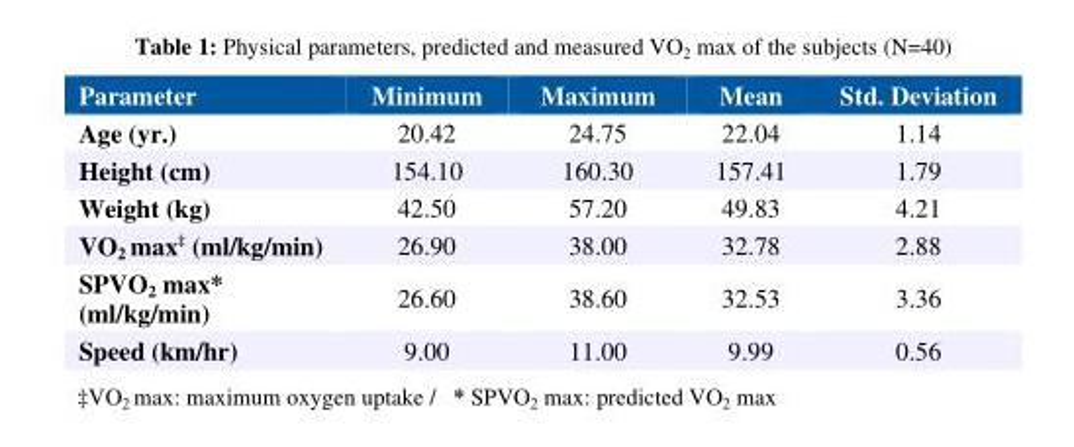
<table><thead><tr><td>Parameter</td><td>Minimum</td><td>Maximum</td><td>Mean</td><td>Std. Deviation</td></tr></thead><tbody><tr><td>Age (yr.)</td><td>20.42</td><td>24.75</td><td>22.04</td><td>1.14</td></tr><tr><td>Height (cm)</td><td>154.10</td><td>160.30</td><td>157.41</td><td>1.79</td></tr><tr><td>Weight (kg)</td><td>42.50</td><td>57.20</td><td>49.83</td><td>4.21</td></tr><tr><td>VO<sub>2</sub> max<sup>‡</sup> (ml/kg/min)</td><td>26.90</td><td>38.00</td><td>32.78</td><td>2.88</td></tr><tr><td>SPVO<sub>2</sub> max* (ml/kg/min)</td><td>26.60</td><td>38.60</td><td>32.53</td><td>3.36</td></tr><tr><td>Speed (km/hr)</td><td>9.00</td><td>11.00</td><td>9.99</td><td>0.56</td></tr></tbody></table>